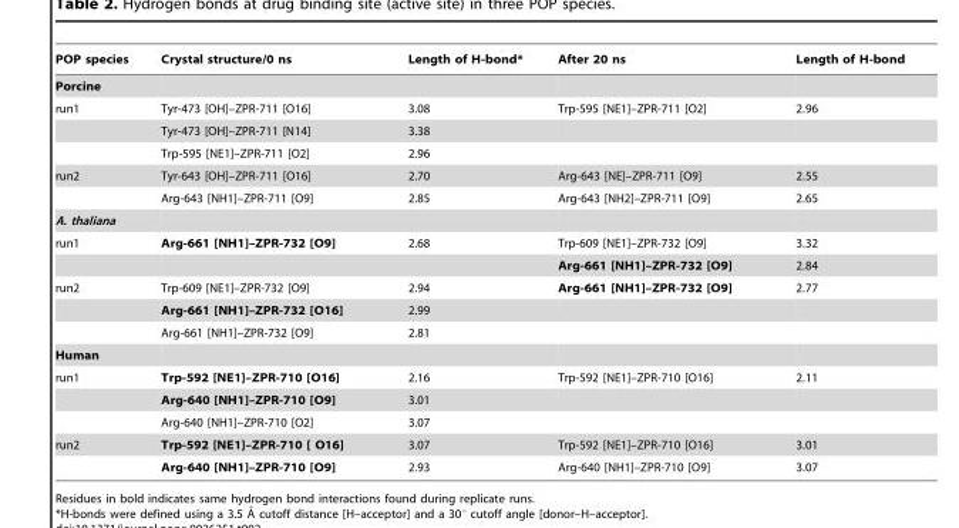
<table><thead><tr><td>POP species</td><td>Crystal structure/0 ns</td><td>Length of H-bond*</td><td>After 20 ns</td><td>Length of H-bond</td></tr></thead><tbody><tr><td colspan="5">Porcine</td></tr><tr><td rowspan="3">run1</td><td>Tyr-473 [OH]–ZPR-711 [O16]</td><td>3.08</td><td>Trp-595 [NE1]–ZPR-711 [O2]</td><td>2.96</td></tr><tr><td>Tyr-473 [OH]–ZPR-711 [N14]</td><td>3.38</td><td></td><td></td></tr><tr><td>Trp-595 [NE1]–ZPR-711 [O2]</td><td>2.96</td><td></td><td></td></tr><tr><td rowspan="2">run2</td><td>Tyr-643 [OH]–ZPR-711 [O16]</td><td>2.70</td><td>Arg-643 [NE]–ZPR-711 [O9]</td><td>2.55</td></tr><tr><td>Arg-643 [NH1]–ZPR-711 [O9]</td><td>2.85</td><td>Arg-643 [NH2]–ZPR-711 [O9]</td><td>2.65</td></tr><tr><td colspan="5">A. thaliana</td></tr><tr><td rowspan="2">run1</td><td>Arg-661 [NH1]–ZPR-732 [O9]</td><td>2.68</td><td>Trp-609 [NE1]–ZPR-732 [O9]</td><td>3.32</td></tr><tr><td></td><td></td><td>Arg-661 [NH1]–ZPR-732 [O9]</td><td>2.84</td></tr><tr><td rowspan="3">run2</td><td>Trp-609 [NE1]–ZPR-732 [O9]</td><td>2.94</td><td>Arg-661 [NH1]–ZPR-732 [O9]</td><td>2.77</td></tr><tr><td>Arg-661 [NH1]–ZPR-732 [O16]</td><td>2.99</td><td></td><td></td></tr><tr><td>Arg-661 [NH1]–ZPR-732 [O9]</td><td>2.81</td><td></td><td></td></tr><tr><td colspan="5">Human</td></tr><tr><td rowspan="3">run1</td><td>Trp-592 [NE1]–ZPR-710 [O16]</td><td>2.16</td><td>Trp-592 [NE1]–ZPR-710 [O16]</td><td>2.11</td></tr><tr><td>Arg-640 [NH1]–ZPR-710 [O9]</td><td>3.01</td><td></td><td></td></tr><tr><td>Arg-640 [NH1]–ZPR-710 [O2]</td><td>3.07</td><td></td><td></td></tr><tr><td rowspan="2">run2</td><td>Trp-592 [NE1]–ZPR-710 [ O16]</td><td>3.07</td><td>Trp-592 [NE1]–ZPR-710 [O16]</td><td>3.01</td></tr><tr><td>Arg-640 [NH1]–ZPR-710 [O9]</td><td>2.93</td><td>Arg-640 [NH1]–ZPR-710 [O9]</td><td>3.07</td></tr></tbody></table>